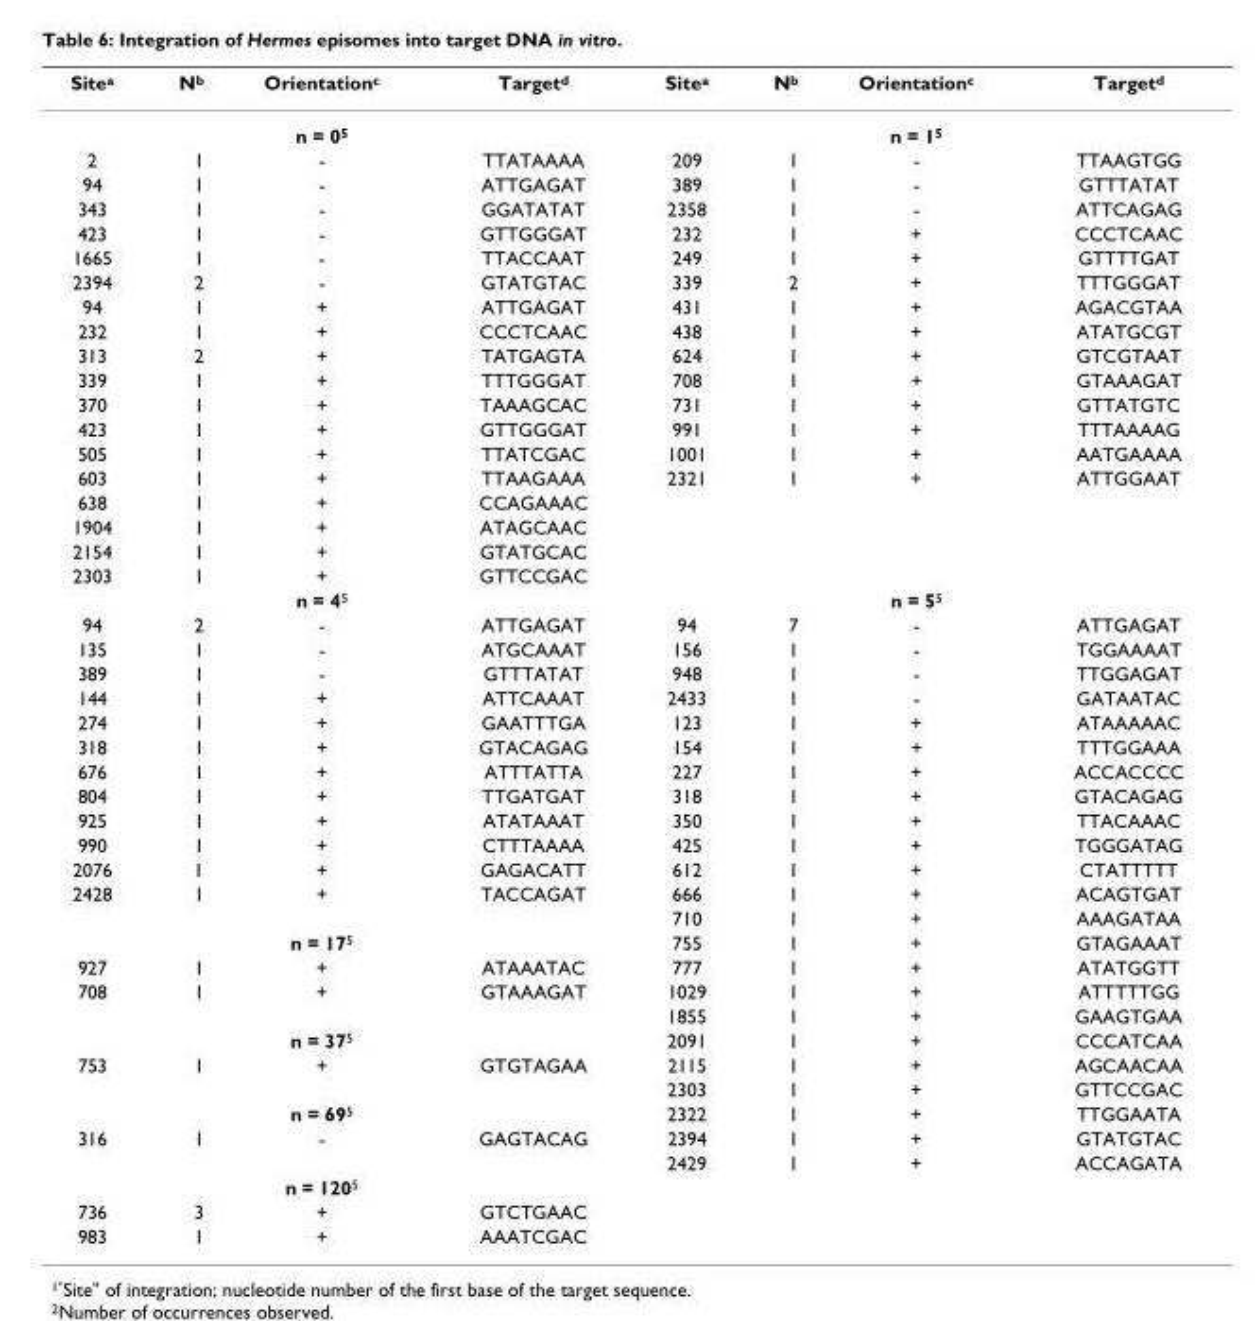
<table><thead><tr><td>Site<sup>a</sup></td><td>N<sup>b</sup></td><td>Orientation<sup>c</sup></td><td>Target<sup>d</sup></td><td>Site<sup>a</sup></td><td>N<sup>b</sup></td><td>Orientation<sup>c</sup></td><td>Target<sup>d</sup></td></tr></thead><tbody><tr><td></td><td></td><td>n = 0<sup>5</sup></td><td></td><td></td><td></td><td>n = 1<sup>5</sup></td><td></td></tr><tr><td>2</td><td>1</td><td>-</td><td>TTATAAAA</td><td>209</td><td>1</td><td>-</td><td>TTAAGTGG</td></tr><tr><td>94</td><td>1</td><td>-</td><td>ATTGAGAT</td><td>389</td><td>1</td><td>-</td><td>GTTTATAT</td></tr><tr><td>343</td><td>1</td><td>-</td><td>GGATATAT</td><td>2358</td><td>1</td><td>-</td><td>ATTCAGAG</td></tr><tr><td>423</td><td>1</td><td>-</td><td>GTTGGGAT</td><td>232</td><td>1</td><td>+</td><td>CCCTCAAC</td></tr><tr><td>1665</td><td>1</td><td>-</td><td>TTACCAAT</td><td>249</td><td>1</td><td>+</td><td>GTTTTGAT</td></tr><tr><td>2394</td><td>2</td><td>-</td><td>GTATGTAC</td><td>339</td><td>2</td><td>+</td><td>TTTGGGAT</td></tr><tr><td>94</td><td>1</td><td>+</td><td>ATTGAGAT</td><td>431</td><td>1</td><td>+</td><td>AGACGTAA</td></tr><tr><td>232</td><td>1</td><td>+</td><td>CCCTCAAC</td><td>438</td><td>1</td><td>+</td><td>ATATGCGT</td></tr><tr><td>313</td><td>2</td><td>+</td><td>TATGAGTA</td><td>624</td><td>1</td><td>+</td><td>GTCGTAAT</td></tr><tr><td>339</td><td>1</td><td>+</td><td>TTTGGGAT</td><td>708</td><td>1</td><td>+</td><td>GTAAAGAT</td></tr><tr><td>370</td><td>1</td><td>+</td><td>TAAAGCAC</td><td>731</td><td>1</td><td>+</td><td>GTTATGTC</td></tr><tr><td>423</td><td>1</td><td>+</td><td>GTTGGGAT</td><td>991</td><td>1</td><td>+</td><td>TTTAAAAG</td></tr><tr><td>505</td><td>1</td><td>+</td><td>TTATCGAC</td><td>1001</td><td>1</td><td>+</td><td>AATGAAAA</td></tr><tr><td>603</td><td>1</td><td>+</td><td>TTAAGAAA</td><td>2321</td><td>1</td><td>+</td><td>ATTGGAAT</td></tr><tr><td>638</td><td>1</td><td>+</td><td>CCAGAAAC</td><td></td><td></td><td></td><td></td></tr><tr><td>1904</td><td>1</td><td>+</td><td>ATAGCAAC</td><td></td><td></td><td></td><td></td></tr><tr><td>2154</td><td>1</td><td>+</td><td>GTATGCAC</td><td></td><td></td><td></td><td></td></tr><tr><td rowspan="2">2303</td><td>1</td><td>+</td><td>GTTCCGAC</td><td></td><td></td><td></td><td></td></tr><tr><td></td><td>n = 4<sup>5</sup></td><td></td><td></td><td></td><td>n = 5<sup>5</sup></td><td></td></tr><tr><td>94</td><td>2</td><td>-</td><td>ATTGAGAT</td><td>94</td><td>7</td><td>-</td><td>ATTGAGAT</td></tr><tr><td>135</td><td>1</td><td>-</td><td>ATGCAAAT</td><td>156</td><td>1</td><td>-</td><td>TGGAAAAT</td></tr><tr><td>389</td><td>1</td><td>-</td><td>GTTTATAT</td><td>948</td><td>1</td><td>-</td><td>TTGGAGAT</td></tr><tr><td>144</td><td>1</td><td>+</td><td>ATTCAAAT</td><td>2433</td><td>1</td><td>-</td><td>GATAATAC</td></tr><tr><td>274</td><td>1</td><td>+</td><td>GAATTTGA</td><td>123</td><td>1</td><td>+</td><td>ATAAAAAC</td></tr><tr><td>318</td><td>1</td><td>+</td><td>GTACAGAG</td><td>154</td><td>1</td><td>+</td><td>TTTGGAAA</td></tr><tr><td>676</td><td>1</td><td>+</td><td>ATTTATTA</td><td>227</td><td>1</td><td>+</td><td>ACCACCCC</td></tr><tr><td>804</td><td>1</td><td>+</td><td>TTGATGAT</td><td>318</td><td>1</td><td>+</td><td>GTACAGAG</td></tr><tr><td>925</td><td>1</td><td>+</td><td>ATATAAAT</td><td>350</td><td>1</td><td>+</td><td>TTACAAAC</td></tr><tr><td>990</td><td>1</td><td>+</td><td>CTTTAAAA</td><td>425</td><td>1</td><td>+</td><td>TGGGATAG</td></tr><tr><td>2076</td><td>1</td><td>+</td><td>GAGACATT</td><td>612</td><td>1</td><td>+</td><td>CTATTTTT</td></tr><tr><td rowspan="3">2428</td><td>1</td><td>+</td><td>TACCAGAT</td><td>666</td><td>1</td><td>+</td><td>ACAGTGAT</td></tr><tr><td></td><td></td><td></td><td>710</td><td>1</td><td>+</td><td>AAAGATAA</td></tr><tr><td></td><td>n = 17<sup>5</sup></td><td></td><td>755</td><td>1</td><td>+</td><td>GTAGAAAT</td></tr><tr><td>927</td><td>1</td><td>+</td><td>ATAAATAC</td><td>777</td><td>1</td><td>+</td><td>ATATGGTT</td></tr><tr><td rowspan="3">708</td><td>1</td><td>+</td><td>GTAAAGAT</td><td>1029</td><td>1</td><td>+</td><td>ATTTTTGG</td></tr><tr><td></td><td></td><td></td><td>1855</td><td>1</td><td>+</td><td>GAAGTGAA</td></tr><tr><td></td><td>n = 37<sup>5</sup></td><td></td><td>2091</td><td>1</td><td>+</td><td>CCCATCAA</td></tr><tr><td rowspan="3">753</td><td>1</td><td>+</td><td>GTGTAGAA</td><td>2115</td><td>1</td><td>+</td><td>AGCAACAA</td></tr><tr><td></td><td></td><td></td><td>2303</td><td>1</td><td>+</td><td>GTTCCGAC</td></tr><tr><td></td><td>n = 69<sup>5</sup></td><td></td><td>2322</td><td>1</td><td>+</td><td>TTGGAATA</td></tr><tr><td rowspan="3">316</td><td>1</td><td>-</td><td>GAGTACAG</td><td>2394</td><td>1</td><td>+</td><td>GTATGTAC</td></tr><tr><td></td><td></td><td></td><td>2429</td><td>1</td><td>+</td><td>ACCAGATA</td></tr><tr><td></td><td>n = 120<sup>5</sup></td><td></td><td></td><td></td><td></td><td></td></tr><tr><td>736</td><td>3</td><td>+</td><td>GTCTGAAC</td><td></td><td></td><td></td><td></td></tr><tr><td>983</td><td>1</td><td>+</td><td>AAATCGAC</td><td></td><td></td><td></td><td></td></tr></tbody></table>